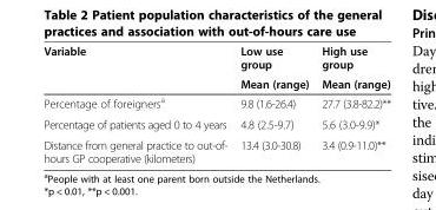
<table><thead><tr><td rowspan="2">Variable</td><td rowspan="2">Low use group Mean (range)</td><td rowspan="2">High use group Mean (range)</td></tr><tr></tr></thead><tbody><tr><td>Percentage of foreigners<sup>a</sup></td><td>9.8 (1.6-26.4)</td><td>27.7 (3.8-82.2)**</td></tr><tr><td>Percentage of patients aged 0 to 4 years</td><td>4.8 (2.5-9.7)</td><td>5.6 (3.0-9.9)*</td></tr><tr><td>Distance from general practice to out-of- hours GP cooperative (kilometers)</td><td>13.4 (3.0-30.8)</td><td>3.4 (0.9-11.0)**</td></tr></tbody></table>